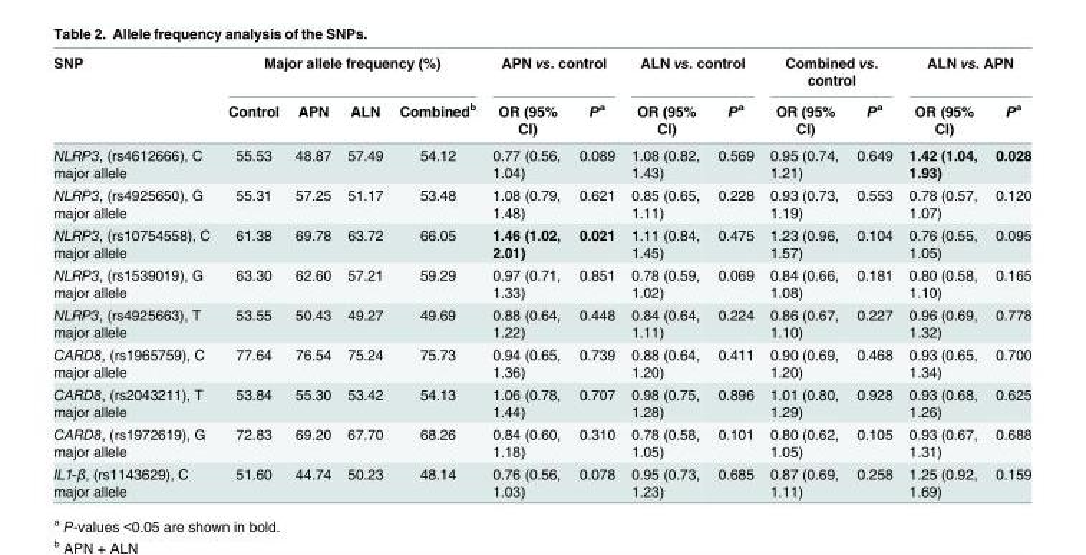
<table><thead><tr><td rowspan="2">SNP</td><td colspan="4">Major allele frequency (%)</td><td colspan="2">APN vs. control</td><td colspan="2">ALN vs. control</td><td colspan="2">Combined vs. control</td><td colspan="2">ALN vs. APN</td></tr><tr><td>Control</td><td>APN</td><td>ALN</td><td>Combined<sup>b</sup></td><td>OR (95% CI)</td><td>P<sup>a</sup></td><td>OR (95% CI)</td><td>P<sup>a</sup></td><td>OR (95% CI)</td><td>P<sup>a</sup></td><td>OR (95% CI)</td><td>P<sup>a</sup></td></tr></thead><tbody><tr><td>NLRP3, (rs4612666), C major allele</td><td>55.53</td><td>48.87</td><td>57.49</td><td>54.12</td><td>0.77 (0.56, 1.04)</td><td>0.089</td><td>1.08 (0.82, 1.43)</td><td>0.569</td><td>0.95 (0.74, 1.21)</td><td>0.649</td><td>1.42 (1.04, 1.93)</td><td>0.028</td></tr><tr><td>NLRP3, (rs4925650), G major allele</td><td>55.31</td><td>57.25</td><td>51.17</td><td>53.48</td><td>1.08 (0.79, 1.48)</td><td>0.621</td><td>0.85 (0.65, 1.11)</td><td>0.228</td><td>0.93 (0.73, 1.19)</td><td>0.553</td><td>0.78 (0.57, 1.07)</td><td>0.120</td></tr><tr><td>NLRP3, (rs10754558), C major allele</td><td>61.38</td><td>69.78</td><td>63.72</td><td>66.05</td><td>1.46 (1.02, 2.01)</td><td>0.021</td><td>1.11 (0.84, 1.45)</td><td>0.475</td><td>1.23 (0.96, 1.57)</td><td>0.104</td><td>0.76 (0.55, 1.05)</td><td>0.095</td></tr><tr><td>NLRP3, (rs1539019), G major allele</td><td>63.30</td><td>62.60</td><td>57.21</td><td>59.29</td><td>0.97 (0.71, 1.33)</td><td>0.851</td><td>0.78 (0.59, 1.02)</td><td>0.069</td><td>0.84 (0.66, 1.08)</td><td>0.181</td><td>0.80 (0.58, 1.10)</td><td>0.165</td></tr><tr><td>NLRP3, (rs4925663), T major allele</td><td>53.55</td><td>50.43</td><td>49.27</td><td>49.69</td><td>0.88 (0.64, 1.22)</td><td>0.448</td><td>0.84 (0.64, 1.11)</td><td>0.224</td><td>0.86 (0.67, 1.10)</td><td>0.227</td><td>0.96 (0.69, 1.32)</td><td>0.778</td></tr><tr><td>CARD8, (rs1965759), C major allele</td><td>77.64</td><td>76.54</td><td>75.24</td><td>75.73</td><td>0.94 (0.65, 1.36)</td><td>0.739</td><td>0.88 (0.64, 1.20)</td><td>0.411</td><td>0.90 (0.69, 1.20)</td><td>0.468</td><td>0.93 (0.65, 1.34)</td><td>0.700</td></tr><tr><td>CARD8, (rs2043211), T major allele</td><td>53.84</td><td>55.30</td><td>53.42</td><td>54.13</td><td>1.06 (0.78, 1.44)</td><td>0.707</td><td>0.98 (0.75, 1.28)</td><td>0.896</td><td>1.01 (0.80, 1.29)</td><td>0.928</td><td>0.93 (0.68, 1.26)</td><td>0.625</td></tr><tr><td>CARD8, (rs1972619), G major allele</td><td>72.83</td><td>69.20</td><td>67.70</td><td>68.26</td><td>0.84 (0.60, 1.18)</td><td>0.310</td><td>0.78 (0.58, 1.05)</td><td>0.101</td><td>0.80 (0.62, 1.05)</td><td>0.105</td><td>0.93 (0.67, 1.31)</td><td>0.688</td></tr><tr><td>IL1-β, (rs1143629), C major allele</td><td>51.60</td><td>44.74</td><td>50.23</td><td>48.14</td><td>0.76 (0.56, 1.03)</td><td>0.078</td><td>0.95 (0.73, 1.23)</td><td>0.685</td><td>0.87 (0.69, 1.11)</td><td>0.258</td><td>1.25 (0.92, 1.69)</td><td>0.159</td></tr></tbody></table>